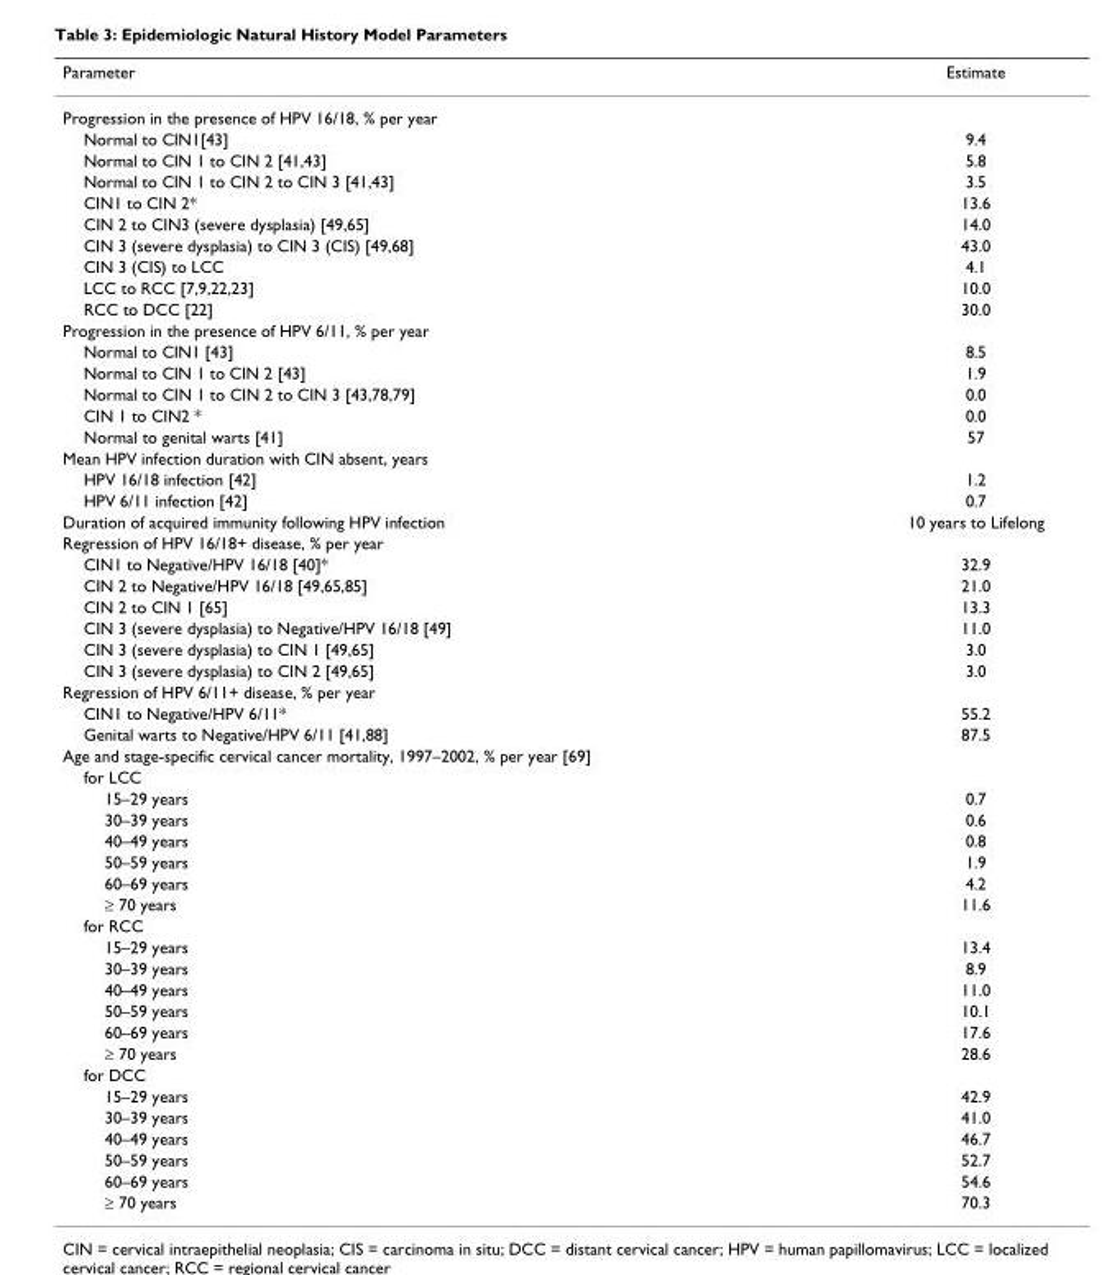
<table><thead><tr><td>Parameter</td><td>Estimate</td></tr></thead><tbody><tr><td colspan="2">Progression in the presence of HPV 16/18, % per year</td></tr><tr><td>Normal to CIN1[43]</td><td>9.4</td></tr><tr><td>Normal to CIN 1 to CIN 2 [41,43]</td><td>5.8</td></tr><tr><td>Normal to CIN 1 to CIN 2 to CIN 3 [41,43]</td><td>3.5</td></tr><tr><td>CIN1 to CIN 2*</td><td>13.6</td></tr><tr><td>CIN 2 to CIN3 (severe dysplasia) [49,65]</td><td>14.0</td></tr><tr><td>CIN 3 (severe dysplasia) to CIN 3 (CIS) [49,68]</td><td>43.0</td></tr><tr><td>CIN 3 (CIS) to LCC</td><td>4.1</td></tr><tr><td>LCC to RCC [7,9,22,23]</td><td>10.0</td></tr><tr><td>RCC to DCC [22]</td><td>30.0</td></tr><tr><td colspan="2">Progression in the presence of HPV 6/11, % per year</td></tr><tr><td>Normal to CIN1 [43]</td><td>8.5</td></tr><tr><td>Normal to CIN 1 to CIN 2 [43]</td><td>1.9</td></tr><tr><td>Normal to CIN 1 to CIN 2 to CIN 3 [43,78,79]</td><td>0.0</td></tr><tr><td>CIN 1 to CIN2 *</td><td>0.0</td></tr><tr><td>Normal to genital warts [41]</td><td>57</td></tr><tr><td colspan="2">Mean HPV infection duration with CIN absent, years</td></tr><tr><td>HPV 16/18 infection [42]</td><td>1.2</td></tr><tr><td>HPV 6/11 infection [42]</td><td>0.7</td></tr><tr><td>Duration of acquired immunity following HPV infection</td><td>10 years to Lifelong</td></tr><tr><td colspan="2">Regression of HPV 16/18+ disease, % per year</td></tr><tr><td>CIN1 to Negative/HPV 16/18 [40]*</td><td>32.9</td></tr><tr><td>CIN 2 to Negative/HPV 16/18 [49,65,85]</td><td>21.0</td></tr><tr><td>CIN 2 to CIN 1 [65]</td><td>13.3</td></tr><tr><td>CIN 3 (severe dysplasia) to Negative/HPV 16/18 [49]</td><td>11.0</td></tr><tr><td>CIN 3 (severe dysplasia) to CIN 1 [49,65]</td><td>3.0</td></tr><tr><td>CIN 3 (severe dysplasia) to CIN 2 [49,65]</td><td>3.0</td></tr><tr><td colspan="2">Regression of HPV 6/11+ disease, % per year</td></tr><tr><td>CIN1 to Negative/HPV 6/11*</td><td>55.2</td></tr><tr><td>Genital warts to Negative/HPV 6/11 [41,88]</td><td>87.5</td></tr><tr><td colspan="2">Age and stage-specific cervical cancer mortality, 1997–2002, % per year [69]</td></tr><tr><td colspan="2">for LCC</td></tr><tr><td>15–29 years</td><td>0.7</td></tr><tr><td>30–39 years</td><td>0.6</td></tr><tr><td>40–49 years</td><td>0.8</td></tr><tr><td>50–59 years</td><td>1.9</td></tr><tr><td>60–69 years</td><td>4.2</td></tr><tr><td>≥ 70 years</td><td>11.6</td></tr><tr><td colspan="2">for RCC</td></tr><tr><td>15–29 years</td><td>13.4</td></tr><tr><td>30–39 years</td><td>8.9</td></tr><tr><td>40–49 years</td><td>11.0</td></tr><tr><td>50–59 years</td><td>10.1</td></tr><tr><td>60–69 years</td><td>17.6</td></tr><tr><td>≥ 70 years</td><td>28.6</td></tr><tr><td colspan="2">for DCC</td></tr><tr><td>15–29 years</td><td>42.9</td></tr><tr><td>30–39 years</td><td>41.0</td></tr><tr><td>40–49 years</td><td>46.7</td></tr><tr><td>50–59 years</td><td>52.7</td></tr><tr><td>60–69 years</td><td>54.6</td></tr><tr><td>≥ 70 years</td><td>70.3</td></tr></tbody></table>